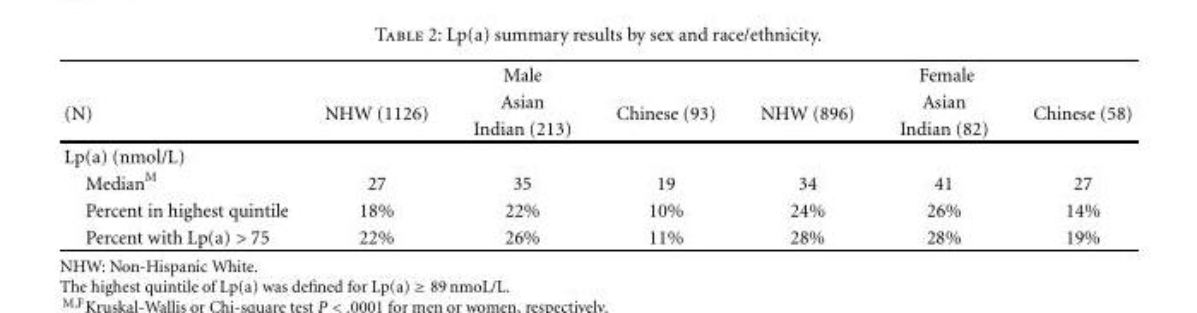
<table><thead><tr><td rowspan="3">(N)</td><td colspan="3">Male</td><td colspan="3">Female</td></tr><tr><td rowspan="2">NHW (1126)</td><td rowspan="2">Asian Indian (213)</td><td rowspan="2">Chinese (93)</td><td rowspan="2">NHW (896)</td><td rowspan="2">Asian Indian (82)</td><td rowspan="2">Chinese (58)</td></tr><tr></tr></thead><tbody><tr><td colspan="7">Lp(a) (nmol/L)</td></tr><tr><td>Median<sup>M</sup></td><td>27</td><td>35</td><td>19</td><td>34</td><td>41</td><td>27</td></tr><tr><td>Percent in highest quintile</td><td>18%</td><td>22%</td><td>10%</td><td>24%</td><td>26%</td><td>14%</td></tr><tr><td>Percent with Lp(a) &gt; 75</td><td>22%</td><td>26%</td><td>11%</td><td>28%</td><td>28%</td><td>19%</td></tr></tbody></table>